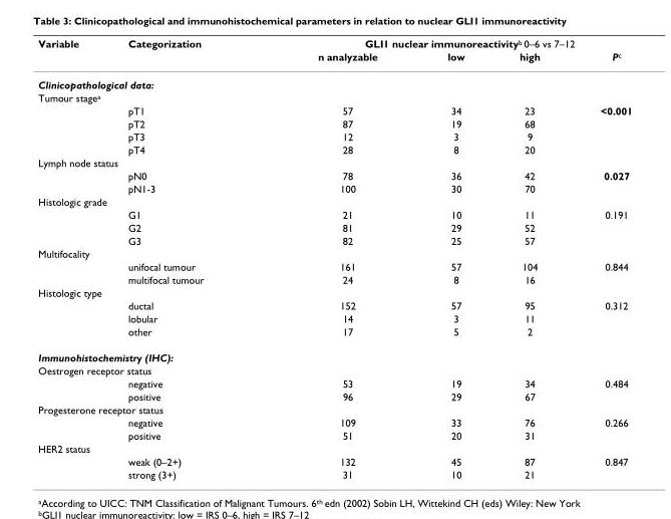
<table><thead><tr><td rowspan="2">Variable</td><td rowspan="2">Categorization</td><td colspan="4">GLI1 nuclear immunoreactivity<sup>b</sup> 0–6 vs 7–12</td></tr><tr><td>n analyzable</td><td>low</td><td>high</td><td>P<sup>c</sup></td></tr></thead><tbody><tr><td colspan="6">Clinicopathological data:</td></tr><tr><td colspan="6">Tumour stage<sup>a</sup></td></tr><tr><td></td><td>pT1</td><td>57</td><td>34</td><td>23</td><td>&lt;0.001</td></tr><tr><td></td><td>pT2</td><td>87</td><td>19</td><td>68</td><td></td></tr><tr><td></td><td>pT3</td><td>12</td><td>3</td><td>9</td><td></td></tr><tr><td></td><td>pT4</td><td>28</td><td>8</td><td>20</td><td></td></tr><tr><td colspan="6">Lymph node status</td></tr><tr><td></td><td>pN0</td><td>78</td><td>36</td><td>42</td><td>0.027</td></tr><tr><td></td><td>pN1-3</td><td>100</td><td>30</td><td>70</td><td></td></tr><tr><td colspan="6">Histologic grade</td></tr><tr><td></td><td>G1</td><td>21</td><td>10</td><td>11</td><td>0.191</td></tr><tr><td></td><td>G2</td><td>81</td><td>29</td><td>52</td><td></td></tr><tr><td></td><td>G3</td><td>82</td><td>25</td><td>57</td><td></td></tr><tr><td colspan="6">Multifocality</td></tr><tr><td></td><td>unifocal tumour</td><td>161</td><td>57</td><td>104</td><td>0.844</td></tr><tr><td></td><td>multifocal tumour</td><td>24</td><td>8</td><td>16</td><td></td></tr><tr><td colspan="6">Histologic type</td></tr><tr><td></td><td>ductal</td><td>152</td><td>57</td><td>95</td><td>0.312</td></tr><tr><td></td><td>lobular</td><td>14</td><td>3</td><td>11</td><td></td></tr><tr><td></td><td>other</td><td>17</td><td>5</td><td>2</td><td></td></tr><tr><td colspan="6">Immunohistochemistry (IHC):</td></tr><tr><td colspan="6">Oestrogen receptor status</td></tr><tr><td></td><td>negative</td><td>53</td><td>19</td><td>34</td><td>0.484</td></tr><tr><td></td><td>positive</td><td>96</td><td>29</td><td>67</td><td></td></tr><tr><td colspan="6">Progesterone receptor status</td></tr><tr><td></td><td>negative</td><td>109</td><td>33</td><td>76</td><td>0.266</td></tr><tr><td></td><td>positive</td><td>51</td><td>20</td><td>31</td><td></td></tr><tr><td colspan="6">HER2 status</td></tr><tr><td></td><td>weak (0–2+)</td><td>132</td><td>45</td><td>87</td><td>0.847</td></tr><tr><td></td><td>strong (3+)</td><td>31</td><td>10</td><td>21</td><td></td></tr></tbody></table>